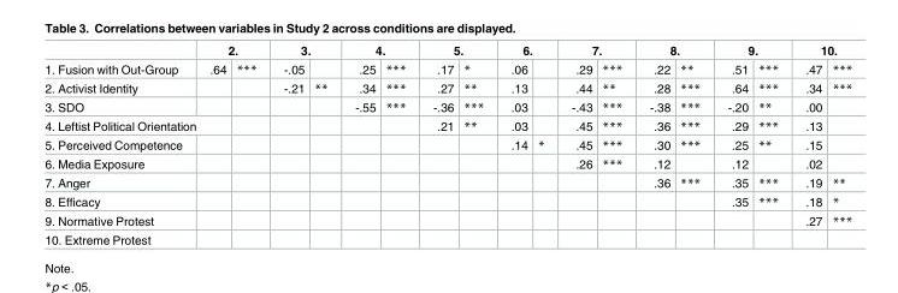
<table><thead><tr><td rowspan="2">1. Fusion with Out-Group</td><td colspan="2">2.</td><td colspan="2">3.</td><td colspan="2">4.</td><td colspan="2">5.</td><td colspan="2">6.</td><td colspan="2">7.</td><td colspan="2">8.</td><td colspan="2">9.</td><td colspan="2">10.</td></tr><tr><td>.64</td><td>***</td><td>-.05</td><td></td><td>.25</td><td>***</td><td>.17</td><td>*</td><td>.06</td><td></td><td>.29</td><td>***</td><td>.22</td><td>**</td><td>.51</td><td>***</td><td>.47</td><td>***</td></tr></thead><tbody><tr><td>2. Activist Identity</td><td></td><td></td><td>-.21</td><td>**</td><td>.34</td><td>***</td><td>.27</td><td>**</td><td>.13</td><td></td><td>.44</td><td>**</td><td>.28</td><td>***</td><td>.64</td><td>***</td><td>.34</td><td>***</td></tr><tr><td>3. SDO</td><td></td><td></td><td></td><td></td><td>-.55</td><td>***</td><td>-.36</td><td>***</td><td>.03</td><td></td><td>-.43</td><td>***</td><td>-.38</td><td>***</td><td>-.20</td><td>**</td><td>.00</td><td></td></tr><tr><td colspan="2">4. Leftist Political Orientation</td><td></td><td></td><td></td><td></td><td></td><td>.21</td><td>**</td><td>.03</td><td></td><td>.45</td><td>***</td><td>.36</td><td>***</td><td>.29</td><td>***</td><td>.13</td><td></td></tr><tr><td>5. Perceived Competence</td><td></td><td></td><td></td><td></td><td></td><td></td><td></td><td></td><td>.14</td><td>*</td><td>.45</td><td>***</td><td>.30</td><td>***</td><td>.25</td><td>**</td><td>.15</td><td></td></tr><tr><td>6. Media Exposure</td><td></td><td></td><td></td><td></td><td></td><td></td><td></td><td></td><td></td><td></td><td>.26</td><td>***</td><td>.12</td><td></td><td>.12</td><td></td><td>.02</td><td></td></tr><tr><td>7. Anger</td><td></td><td></td><td></td><td></td><td></td><td></td><td></td><td></td><td></td><td></td><td></td><td></td><td>.36</td><td>***</td><td>.35</td><td>***</td><td>.19</td><td>**</td></tr><tr><td>8. Efficacy</td><td></td><td></td><td></td><td></td><td></td><td></td><td></td><td></td><td></td><td></td><td></td><td></td><td></td><td></td><td>.35</td><td>***</td><td>.18</td><td>*</td></tr><tr><td>9. Normative Protest</td><td></td><td></td><td></td><td></td><td></td><td></td><td></td><td></td><td></td><td></td><td></td><td></td><td></td><td></td><td></td><td></td><td>.27</td><td>***</td></tr><tr><td>10. Extreme Protest</td><td></td><td></td><td></td><td></td><td></td><td></td><td></td><td></td><td></td><td></td><td></td><td></td><td></td><td></td><td></td><td></td><td></td><td></td></tr></tbody></table>